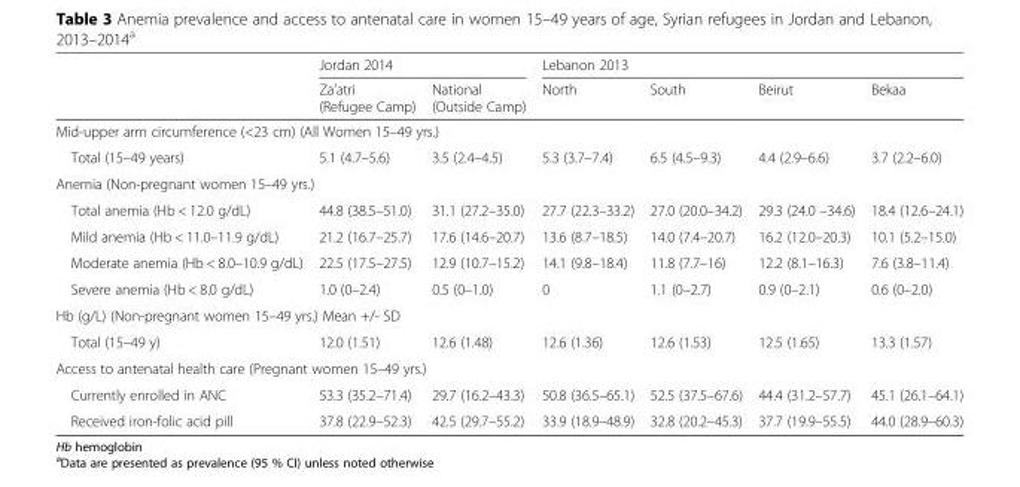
<table><thead><tr><td rowspan="2"></td><td colspan="2">Jordan 2014</td><td colspan="4">Lebanon 2013</td></tr><tr><td>Za’atri (Refugee Camp)</td><td>National (Outside Camp)</td><td>North</td><td>South</td><td>Beirut</td><td>Bekaa</td></tr></thead><tbody><tr><td colspan="7">Mid-upper arm circumference (&lt;23 cm) (All Women 15–49 yrs.)</td></tr><tr><td>Total (15–49 years)</td><td>5.1 (4.7–5.6)</td><td>3.5 (2.4–4.5)</td><td>5.3 (3.7–7.4)</td><td>6.5 (4.5–9.3)</td><td>4.4 (2.9–6.6)</td><td>3.7 (2.2–6.0)</td></tr><tr><td colspan="7">Anemia (Non-pregnant women 15–49 yrs.)</td></tr><tr><td>Total anemia (Hb &lt; 12.0 g/dL)</td><td>44.8 (38.5–51.0)</td><td>31.1 (27.2–35.0)</td><td>27.7 (22.3–33.2)</td><td>27.0 (20.0–34.2)</td><td>29.3 (24.0 –34.6)</td><td>18.4 (12.6–24.1)</td></tr><tr><td>Mild anemia (Hb &lt; 11.0–11.9 g/dL)</td><td>21.2 (16.7–25.7)</td><td>17.6 (14.6–20.7)</td><td>13.6 (8.7–18.5)</td><td>14.0 (7.4–20.7)</td><td>16.2 (12.0–20.3)</td><td>10.1 (5.2–15.0)</td></tr><tr><td>Moderate anemia (Hb &lt; 8.0–10.9 g/dL)</td><td>22.5 (17.5–27.5)</td><td>12.9 (10.7–15.2)</td><td>14.1 (9.8–18.4)</td><td>11.8 (7.7–16)</td><td>12.2 (8.1–16.3)</td><td>7.6 (3.8–11.4)</td></tr><tr><td>Severe anemia (Hb &lt; 8.0 g/dL)</td><td>1.0 (0–2.4)</td><td>0.5 (0–1.0)</td><td>0</td><td>1.1 (0–2.7)</td><td>0.9 (0–2.1)</td><td>0.6 (0–2.0)</td></tr><tr><td colspan="7">Hb (g/L) (Non-pregnant women 15–49 yrs.) Mean +/- SD</td></tr><tr><td>Total (15–49 y)</td><td>12.0 (1.51)</td><td>12.6 (1.48)</td><td>12.6 (1.36)</td><td>12.6 (1.53)</td><td>12.5 (1.65)</td><td>13.3 (1.57)</td></tr><tr><td colspan="7">Access to antenatal health care (Pregnant women 15–49 yrs.)</td></tr><tr><td>Currently enrolled in ANC</td><td>53.3 (35.2–71.4)</td><td>29.7 (16.2–43.3)</td><td>50.8 (36.5–65.1)</td><td>52.5 (37.5–67.6)</td><td>44.4 (31.2–57.7)</td><td>45.1 (26.1–64.1)</td></tr><tr><td>Received iron-folic acid pill</td><td>37.8 (22.9–52.3)</td><td>42.5 (29.7–55.2)</td><td>33.9 (18.9–48.9)</td><td>32.8 (20.2–45.3)</td><td>37.7 (19.9–55.5)</td><td>44.0 (28.9–60.3)</td></tr></tbody></table>